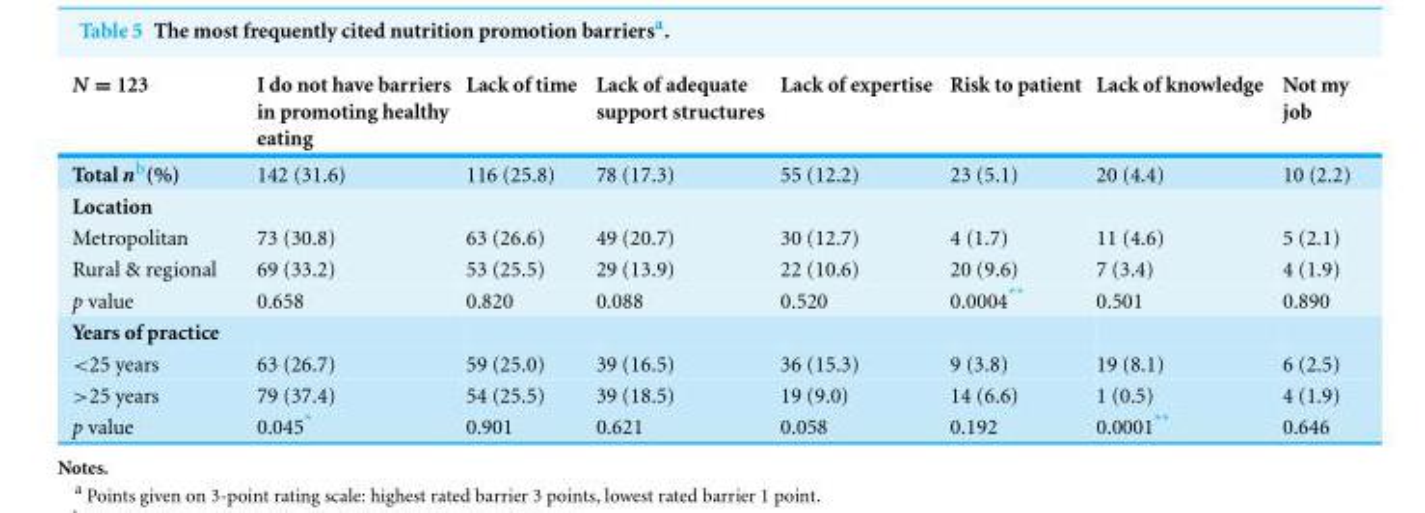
<table><thead><tr><td>N = 123</td><td>I do not have barriers in promoting healthy eating</td><td>Lack of time</td><td>Lack of adequate support structures</td><td>Lack of expertise</td><td>Risk to patient</td><td>Lack of knowledge</td><td>Not my job</td></tr></thead><tbody><tr><td>Total n<sup>b</sup>(%)</td><td>142 (31.6)</td><td>116 (25.8)</td><td>78 (17.3)</td><td>55 (12.2)</td><td>23 (5.1)</td><td>20 (4.4)</td><td>10 (2.2)</td></tr><tr><td colspan="8">Location</td></tr><tr><td>Metropolitan</td><td>73 (30.8)</td><td>63 (26.6)</td><td>49 (20.7)</td><td>30 (12.7)</td><td>4 (1.7)</td><td>11 (4.6)</td><td>5 (2.1)</td></tr><tr><td>Rural &amp; regional</td><td>69 (33.2)</td><td>53 (25.5)</td><td>29 (13.9)</td><td>22 (10.6)</td><td>20 (9.6)</td><td>7 (3.4)</td><td>4 (1.9)</td></tr><tr><td>p value</td><td>0.658</td><td>0.820</td><td>0.088</td><td>0.520</td><td>0.0004**</td><td>0.501</td><td>0.890</td></tr><tr><td colspan="8">Years of practice</td></tr><tr><td>&lt;25 years</td><td>63 (26.7)</td><td>59 (25.0)</td><td>39 (16.5)</td><td>36 (15.3)</td><td>9 (3.8)</td><td>19 (8.1)</td><td>6 (2.5)</td></tr><tr><td>&gt;25 years</td><td>79 (37.4)</td><td>54 (25.5)</td><td>39 (18.5)</td><td>19 (9.0)</td><td>14 (6.6)</td><td>1 (0.5)</td><td>4 (1.9)</td></tr><tr><td>p value</td><td>0.045*</td><td>0.901</td><td>0.621</td><td>0.058</td><td>0.192</td><td>0.0001**</td><td>0.646</td></tr></tbody></table>